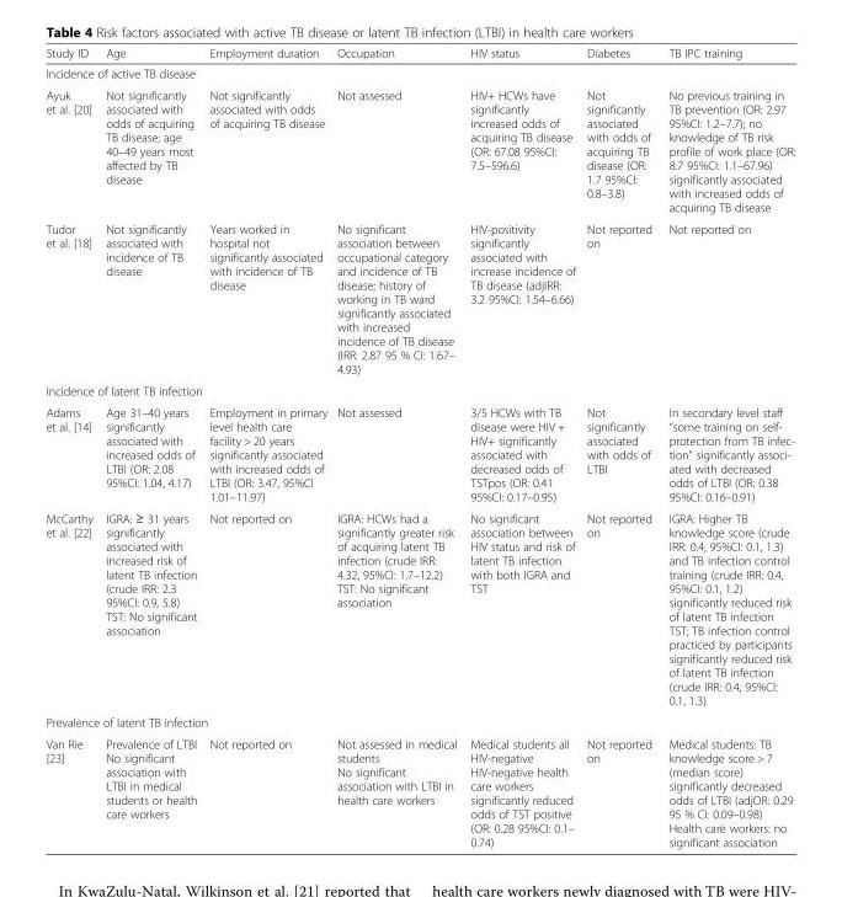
<table><thead><tr><td>Study ID</td><td>Age</td><td>Employment duration</td><td>Occupation</td><td>HIV status</td><td>Diabetes</td><td>TB IPC training</td></tr></thead><tbody><tr><td colspan="7">Incidence of active TB disease</td></tr><tr><td>Ayuk et al. [20]</td><td>Not significantly associated with odds of acquiring TB disease; age 40–49 years most affected by TB disease</td><td>Not significantly associated with odds of acquiring TB disease</td><td>Not assessed</td><td>HIV+ HCWs have significantly increased odds of acquiring TB disease (OR: 67.08 95%CI: 7.5–596.6)</td><td>Not significantly associated with odds of acquiring TB disease (OR: 1.7 95%CI: 0.8–3.8)</td><td>No previous training in TB prevention (OR: 2.97 95%CI: 1.2–7.7); no knowledge of TB risk profile of work place (OR: 8.7 95%CI: 1.1–67.96) significantly associated with increased odds of acquiring TB disease</td></tr><tr><td>Tudor et al. [18]</td><td>Not significantly associated with incidence of TB disease</td><td>Years worked in hospital not significantly associated with incidence of TB disease</td><td>No significant association between occupational category and incidence of TB disease; history of working in TB ward significantly associated with increased incidence of TB disease (IRR: 2.87 95 % CI: 1.67– 4.93)</td><td>HIV-positivity significantly associated with increase incidence of TB disease (adjIRR: 3.2 95%CI: 1.54–6.66)</td><td>Not reported on</td><td>Not reported on</td></tr><tr><td colspan="7">Incidence of latent TB infection</td></tr><tr><td>Adams et al. [14]</td><td>Age 31–40 years significantly associated with increased odds of LTBI (OR: 2.08 95%CI: 1.04, 4.17)</td><td>Employment in primary level health care facility &gt; 20 years significantly associated with increased odds of LTBI (OR: 3.47, 95%CI 1.01–11.97)</td><td>Not assessed</td><td>3/5 HCWs with TB disease were HIV + HIV+ significantly associated with decreased odds of TSTpos (OR: 0.41 95%CI: 0.17–0.95)</td><td>Not significantly associated with odds of LTBI</td><td>In secondary level staff “some training on self- protection from TB infec- tion” significantly associ- ated with decreased odds of LTBI (OR: 0.38 95%CI: 0.16–0.91)</td></tr><tr><td>McCarthy et al. [22]</td><td>IGRA: ≥ 31 years significantly associated with increased risk of latent TB infection (crude IRR: 2.3 95%CI: 0.9, 5.8) TST: No significant association</td><td>Not reported on</td><td>IGRA: HCWs had a significantly greater risk of acquiring latent TB infection (crude IRR: 4.32, 95%CI: 1.7–12.2) TST: No significant association</td><td>No significant association between HIV status and risk of latent TB infection with both IGRA and TST</td><td>Not reported on</td><td>IGRA: Higher TB knowledge score (crude IRR: 0.4, 95%CI: 0.1, 1.3) and TB infection control training (crude IRR: 0.4, 95%CI: 0.1, 1.2) significantly reduced risk of latent TB infection TST; TB infection control practiced by participants significantly reduced risk of latent TB infection (crude IRR: 0.4, 95%CI: 0.1, 1.3)</td></tr><tr><td colspan="7">Prevalence of latent TB infection</td></tr><tr><td>Van Rie [23]</td><td>Prevalence of LTBI No significant association with LTBI in medical students or health care workers</td><td>Not reported on</td><td>Not assessed in medical students No significant association with LTBI in health care workers</td><td>Medical students all HIV-negative HIV-negative health care workers significantly reduced odds of TST positive (OR: 0.28 95%CI: 0.1– 0.74)</td><td>Not reported on</td><td>Medical students: TB knowledge score &gt; 7 (median score) significantly decreased odds of LTBI (adjOR: 0.29 95 % CI: 0.09–0.98) Health care workers: no significant association</td></tr></tbody></table>